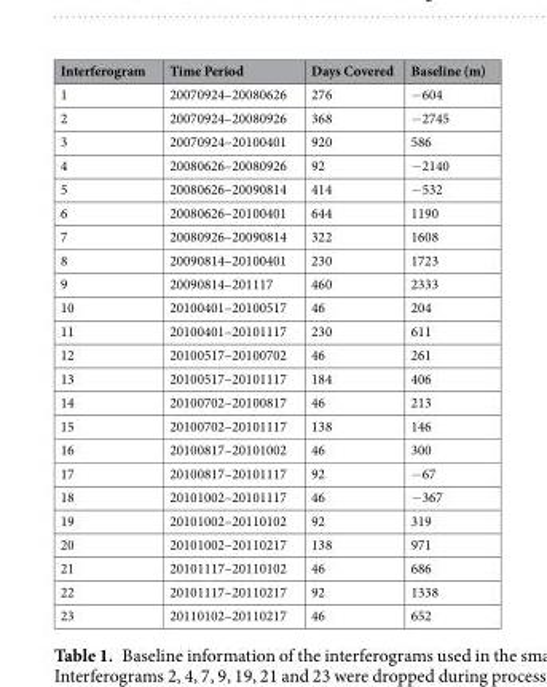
<table><thead><tr><td>Interferogram</td><td>Time Period</td><td>Days Covered</td><td>Baseline (m)</td></tr></thead><tbody><tr><td>1</td><td>20070924–20080626</td><td>276</td><td>−604</td></tr><tr><td>2</td><td>20070924–20080926</td><td>368</td><td>−2745</td></tr><tr><td>3</td><td>20070924–20100401</td><td>920</td><td>586</td></tr><tr><td>4</td><td>20080626–20080926</td><td>92</td><td>−2140</td></tr><tr><td>5</td><td>20080626–20090814</td><td>414</td><td>−532</td></tr><tr><td>6</td><td>20080626–20100401</td><td>644</td><td>1190</td></tr><tr><td>7</td><td>20080926–20090814</td><td>322</td><td>1608</td></tr><tr><td>8</td><td>20090814–20100401</td><td>230</td><td>1723</td></tr><tr><td>9</td><td>20090814–201117</td><td>460</td><td>2333</td></tr><tr><td>10</td><td>20100401–20100517</td><td>46</td><td>204</td></tr><tr><td>11</td><td>20100401–20101117</td><td>230</td><td>611</td></tr><tr><td>12</td><td>20100517–20100702</td><td>46</td><td>261</td></tr><tr><td>13</td><td>20100517–20101117</td><td>184</td><td>406</td></tr><tr><td>14</td><td>20100702–20100817</td><td>46</td><td>213</td></tr><tr><td>15</td><td>20100702–20101117</td><td>138</td><td>146</td></tr><tr><td>16</td><td>20100817–20101002</td><td>46</td><td>300</td></tr><tr><td>17</td><td>20100817–20101117</td><td>92</td><td>−67</td></tr><tr><td>18</td><td>20101002–20101117</td><td>46</td><td>−367</td></tr><tr><td>19</td><td>20101002–20110102</td><td>92</td><td>319</td></tr><tr><td>20</td><td>20101002–20110217</td><td>138</td><td>971</td></tr><tr><td>21</td><td>20101117–20110102</td><td>46</td><td>686</td></tr><tr><td>22</td><td>20101117–20110217</td><td>92</td><td>1338</td></tr><tr><td>23</td><td>20110102–20110217</td><td>46</td><td>652</td></tr></tbody></table>